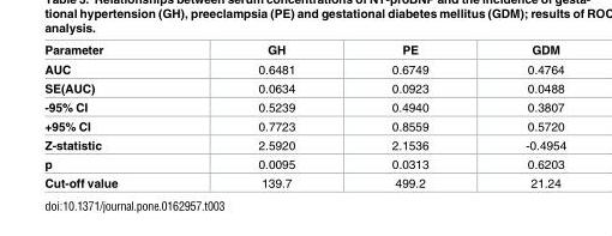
<table><thead><tr><td>Parameter</td><td>GH</td><td>PE</td><td>GDM</td></tr></thead><tbody><tr><td>AUC</td><td>0.6481</td><td>0.6749</td><td>0.4764</td></tr><tr><td>SE(AUC)</td><td>0.0634</td><td>0.0923</td><td>0.0488</td></tr><tr><td>-95% CI</td><td>0.5239</td><td>0.4940</td><td>0.3807</td></tr><tr><td>+95% CI</td><td>0.7723</td><td>0.8559</td><td>0.5720</td></tr><tr><td>Z-statistic</td><td>2.5920</td><td>2.1536</td><td>-0.4954</td></tr><tr><td>p</td><td>0.0095</td><td>0.0313</td><td>0.6203</td></tr><tr><td>Cut-off value</td><td>139.7</td><td>499.2</td><td>21.24</td></tr></tbody></table>